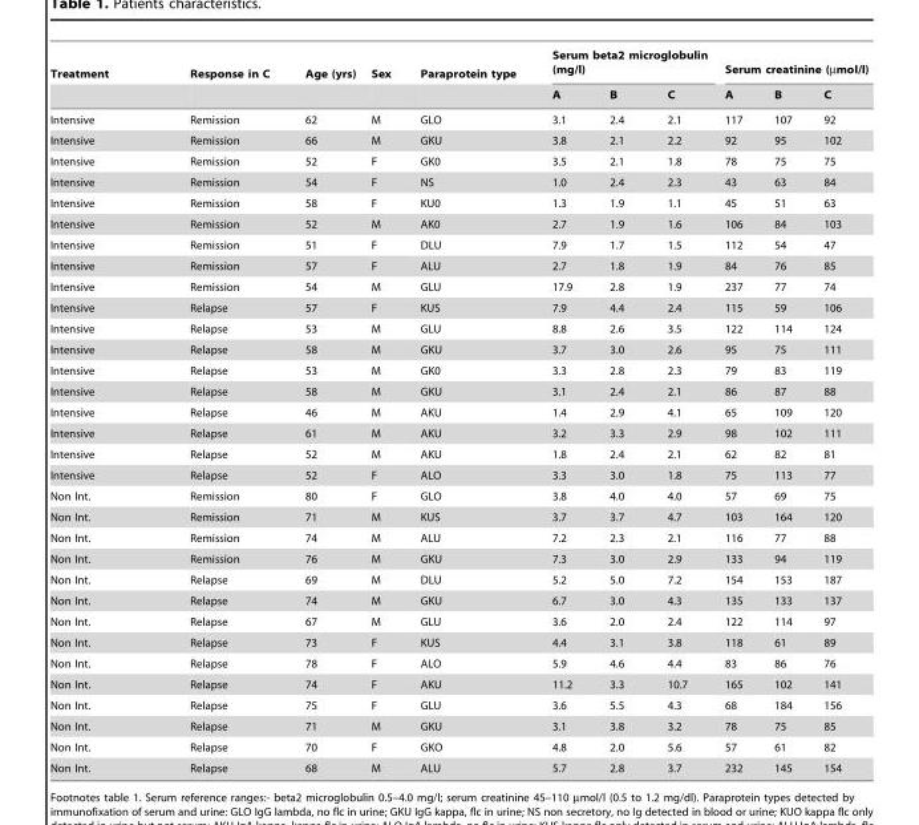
<table><thead><tr><td rowspan="2">Treatment</td><td rowspan="2">Response in C</td><td rowspan="2">Age (yrs)</td><td rowspan="2">Sex</td><td rowspan="2">Paraprotein type</td><td colspan="3">Serum beta2 microglobulin (mg/l)</td><td colspan="3">Serum creatinine (µmol/l)</td></tr><tr><td>A</td><td>B</td><td>C</td><td>A</td><td>B</td><td>C</td></tr></thead><tbody><tr><td>Intensive</td><td>Remission</td><td>62</td><td>M</td><td>GLO</td><td>3.1</td><td>2.4</td><td>2.1</td><td>117</td><td>107</td><td>92</td></tr><tr><td>Intensive</td><td>Remission</td><td>66</td><td>M</td><td>GKU</td><td>3.8</td><td>2.1</td><td>2.2</td><td>92</td><td>95</td><td>102</td></tr><tr><td>Intensive</td><td>Remission</td><td>52</td><td>F</td><td>GK0</td><td>3.5</td><td>2.1</td><td>1.8</td><td>78</td><td>75</td><td>75</td></tr><tr><td>Intensive</td><td>Remission</td><td>54</td><td>F</td><td>NS</td><td>1.0</td><td>2.4</td><td>2.3</td><td>43</td><td>63</td><td>84</td></tr><tr><td>Intensive</td><td>Remission</td><td>58</td><td>F</td><td>KU0</td><td>1.3</td><td>1.9</td><td>1.1</td><td>45</td><td>51</td><td>63</td></tr><tr><td>Intensive</td><td>Remission</td><td>52</td><td>M</td><td>AK0</td><td>2.7</td><td>1.9</td><td>1.6</td><td>106</td><td>84</td><td>103</td></tr><tr><td>Intensive</td><td>Remission</td><td>51</td><td>F</td><td>DLU</td><td>7.9</td><td>1.7</td><td>1.5</td><td>112</td><td>54</td><td>47</td></tr><tr><td>Intensive</td><td>Remission</td><td>57</td><td>F</td><td>ALU</td><td>2.7</td><td>1.8</td><td>1.9</td><td>84</td><td>76</td><td>85</td></tr><tr><td>Intensive</td><td>Remission</td><td>54</td><td>M</td><td>GLU</td><td>17.9</td><td>2.8</td><td>1.9</td><td>237</td><td>77</td><td>74</td></tr><tr><td>Intensive</td><td>Relapse</td><td>57</td><td>F</td><td>KUS</td><td>7.9</td><td>4.4</td><td>2.4</td><td>115</td><td>59</td><td>106</td></tr><tr><td>Intensive</td><td>Relapse</td><td>53</td><td>M</td><td>GLU</td><td>8.8</td><td>2.6</td><td>3.5</td><td>122</td><td>114</td><td>124</td></tr><tr><td>Intensive</td><td>Relapse</td><td>58</td><td>M</td><td>GKU</td><td>3.7</td><td>3.0</td><td>2.6</td><td>95</td><td>75</td><td>111</td></tr><tr><td>Intensive</td><td>Relapse</td><td>53</td><td>M</td><td>GK0</td><td>3.3</td><td>2.8</td><td>2.3</td><td>79</td><td>83</td><td>119</td></tr><tr><td>Intensive</td><td>Relapse</td><td>58</td><td>M</td><td>GKU</td><td>3.1</td><td>2.4</td><td>2.1</td><td>86</td><td>87</td><td>88</td></tr><tr><td>Intensive</td><td>Relapse</td><td>46</td><td>M</td><td>AKU</td><td>1.4</td><td>2.9</td><td>4.1</td><td>65</td><td>109</td><td>120</td></tr><tr><td>Intensive</td><td>Relapse</td><td>61</td><td>M</td><td>AKU</td><td>3.2</td><td>3.3</td><td>2.9</td><td>98</td><td>102</td><td>111</td></tr><tr><td>Intensive</td><td>Relapse</td><td>52</td><td>M</td><td>AKU</td><td>1.8</td><td>2.4</td><td>2.1</td><td>62</td><td>82</td><td>81</td></tr><tr><td>Intensive</td><td>Relapse</td><td>52</td><td>F</td><td>ALO</td><td>3.3</td><td>3.0</td><td>1.8</td><td>75</td><td>113</td><td>77</td></tr><tr><td>Non Int.</td><td>Remission</td><td>80</td><td>F</td><td>GLO</td><td>3.8</td><td>4.0</td><td>4.0</td><td>57</td><td>69</td><td>75</td></tr><tr><td>Non Int.</td><td>Remission</td><td>71</td><td>M</td><td>KUS</td><td>3.7</td><td>3.7</td><td>4.7</td><td>103</td><td>164</td><td>120</td></tr><tr><td>Non Int.</td><td>Remission</td><td>74</td><td>M</td><td>ALU</td><td>7.2</td><td>2.3</td><td>2.1</td><td>116</td><td>77</td><td>88</td></tr><tr><td>Non Int.</td><td>Remission</td><td>76</td><td>M</td><td>GKU</td><td>7.3</td><td>3.0</td><td>2.9</td><td>133</td><td>94</td><td>119</td></tr><tr><td>Non Int.</td><td>Relapse</td><td>69</td><td>M</td><td>DLU</td><td>5.2</td><td>5.0</td><td>7.2</td><td>154</td><td>153</td><td>187</td></tr><tr><td>Non Int.</td><td>Relapse</td><td>74</td><td>M</td><td>GKU</td><td>6.7</td><td>3.0</td><td>4.3</td><td>135</td><td>133</td><td>137</td></tr><tr><td>Non Int.</td><td>Relapse</td><td>67</td><td>M</td><td>GLU</td><td>3.6</td><td>2.0</td><td>2.4</td><td>122</td><td>114</td><td>97</td></tr><tr><td>Non Int.</td><td>Relapse</td><td>73</td><td>F</td><td>KUS</td><td>4.4</td><td>3.1</td><td>3.8</td><td>118</td><td>61</td><td>89</td></tr><tr><td>Non Int.</td><td>Relapse</td><td>78</td><td>F</td><td>ALO</td><td>5.9</td><td>4.6</td><td>4.4</td><td>83</td><td>86</td><td>76</td></tr><tr><td>Non Int.</td><td>Relapse</td><td>74</td><td>F</td><td>AKU</td><td>11.2</td><td>3.3</td><td>10.7</td><td>165</td><td>102</td><td>141</td></tr><tr><td>Non Int.</td><td>Relapse</td><td>75</td><td>F</td><td>GLU</td><td>3.6</td><td>5.5</td><td>4.3</td><td>68</td><td>184</td><td>156</td></tr><tr><td>Non Int.</td><td>Relapse</td><td>71</td><td>M</td><td>GKU</td><td>3.1</td><td>3.8</td><td>3.2</td><td>78</td><td>75</td><td>85</td></tr><tr><td>Non Int.</td><td>Relapse</td><td>70</td><td>F</td><td>GKO</td><td>4.8</td><td>2.0</td><td>5.6</td><td>57</td><td>61</td><td>82</td></tr><tr><td>Non Int.</td><td>Relapse</td><td>68</td><td>M</td><td>ALU</td><td>5.7</td><td>2.8</td><td>3.7</td><td>232</td><td>145</td><td>154</td></tr></tbody></table>